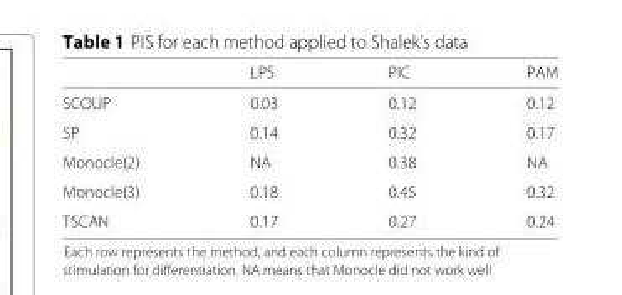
<table><thead><tr><td></td><td>LPS</td><td>PIC</td><td>PAM</td></tr></thead><tbody><tr><td>SCOUP</td><td>0.03</td><td>0.12</td><td>0.12</td></tr><tr><td>SP</td><td>0.14</td><td>0.32</td><td>0.17</td></tr><tr><td>Monocle(2)</td><td>NA</td><td>0.38</td><td>NA</td></tr><tr><td>Monocle(3)</td><td>0.18</td><td>0.45</td><td>0.32</td></tr><tr><td>TSCAN</td><td>0.17</td><td>0.27</td><td>0.24</td></tr></tbody></table>